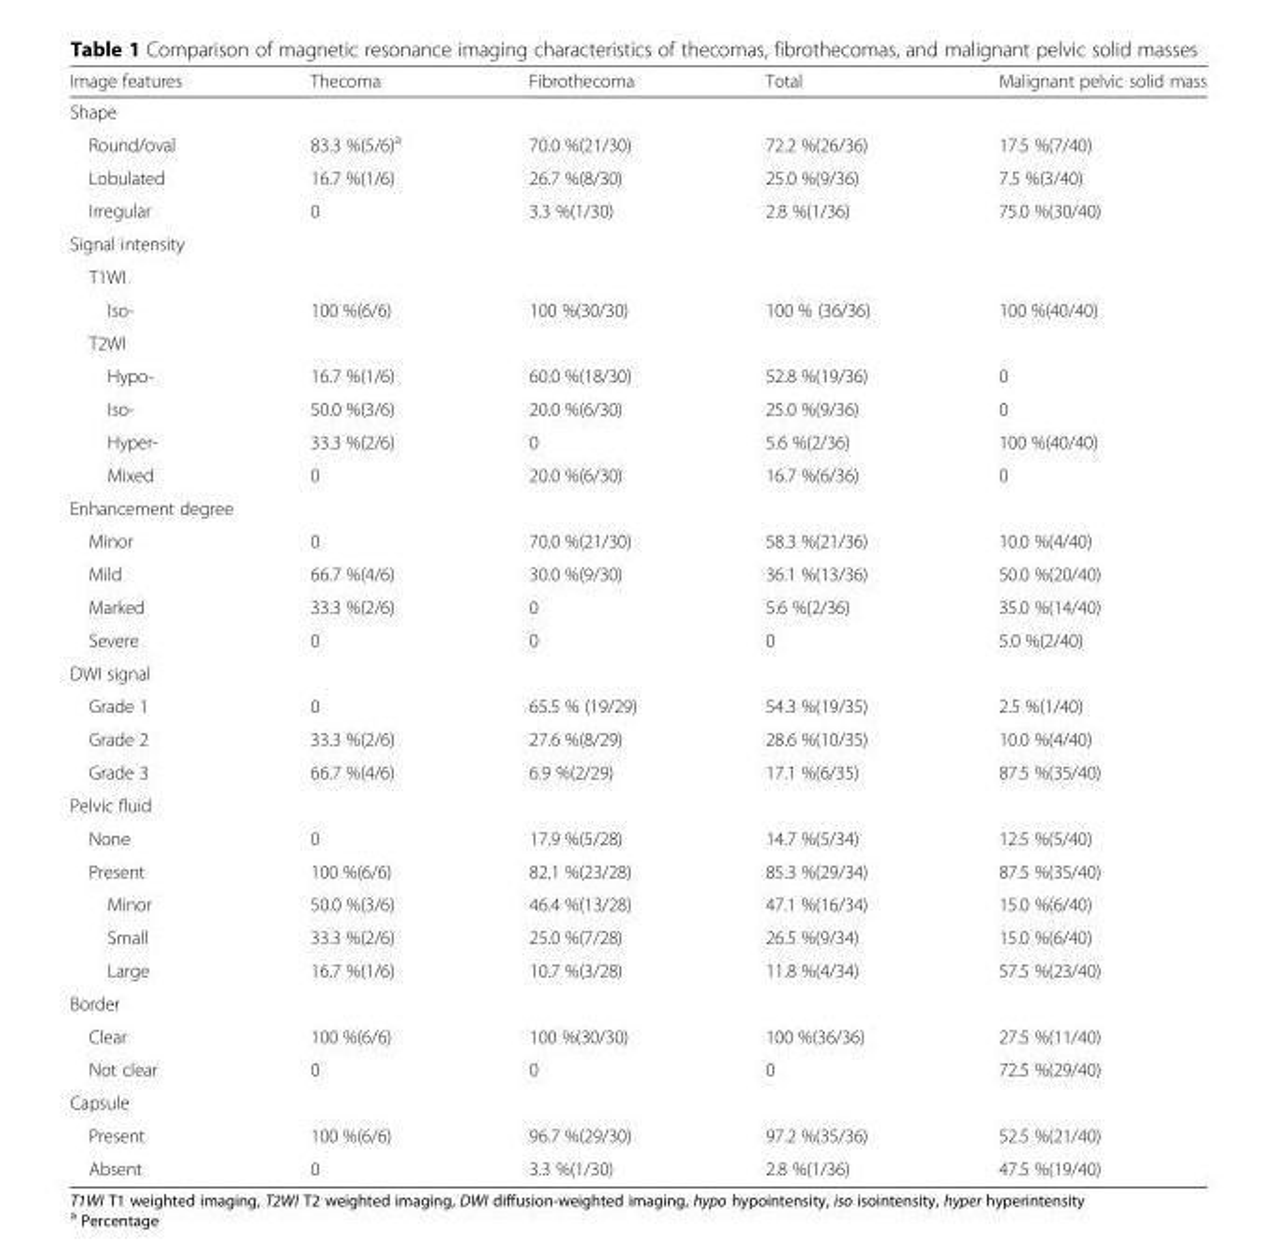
<table><thead><tr><td>Image features</td><td>Thecoma</td><td>Fibrothecoma</td><td>Total</td><td>Malignant pelvic solid mass</td></tr></thead><tbody><tr><td colspan="5">Shape</td></tr><tr><td>Round/oval</td><td>83.3 %(5/6)<sup>a</sup></td><td>70.0 %(21/30)</td><td>72.2 %(26/36)</td><td>17.5 %(7/40)</td></tr><tr><td>Lobulated</td><td>16.7 %(1/6)</td><td>26.7 %(8/30)</td><td>25.0 %(9/36)</td><td>7.5 %(3/40)</td></tr><tr><td>Irregular</td><td>0</td><td>3.3 %(1/30)</td><td>2.8 %(1/36)</td><td>75.0 %(30/40)</td></tr><tr><td colspan="5">Signal intensity</td></tr><tr><td colspan="5">T1WI</td></tr><tr><td>Iso-</td><td>100 %(6/6)</td><td>100 %(30/30)</td><td>100 % (36/36)</td><td>100 %(40/40)</td></tr><tr><td colspan="5">T2WI</td></tr><tr><td>Hypo-</td><td>16.7 %(1/6)</td><td>60.0 %(18/30)</td><td>52.8 %(19/36)</td><td>0</td></tr><tr><td>Iso-</td><td>50.0 %(3/6)</td><td>20.0 %(6/30)</td><td>25.0 %(9/36)</td><td>0</td></tr><tr><td>Hyper-</td><td>33.3 %(2/6)</td><td>0</td><td>5.6 %(2/36)</td><td>100 %(40/40)</td></tr><tr><td>Mixed</td><td>0</td><td>20.0 %(6/30)</td><td>16.7 %(6/36)</td><td>0</td></tr><tr><td colspan="5">Enhancement degree</td></tr><tr><td>Minor</td><td>0</td><td>70.0 %(21/30)</td><td>58.3 %(21/36)</td><td>10.0 %(4/40)</td></tr><tr><td>Mild</td><td>66.7 %(4/6)</td><td>30.0 %(9/30)</td><td>36.1 %(13/36)</td><td>50.0 %(20/40)</td></tr><tr><td>Marked</td><td>33.3 %(2/6)</td><td>0</td><td>5.6 %(2/36)</td><td>35.0 %(14/40)</td></tr><tr><td>Severe</td><td>0</td><td>0</td><td>0</td><td>5.0 %(2/40)</td></tr><tr><td colspan="5">DWI signal</td></tr><tr><td>Grade 1</td><td>0</td><td>65.5 % (19/29)</td><td>54.3 %(19/35)</td><td>2.5 %(1/40)</td></tr><tr><td>Grade 2</td><td>33.3 %(2/6)</td><td>27.6 %(8/29)</td><td>28.6 %(10/35)</td><td>10.0 %(4/40)</td></tr><tr><td>Grade 3</td><td>66.7 %(4/6)</td><td>6.9 %(2/29)</td><td>17.1 %(6/35)</td><td>87.5 %(35/40)</td></tr><tr><td colspan="5">Pelvic fluid</td></tr><tr><td>None</td><td>0</td><td>17.9 %(5/28)</td><td>14.7 %(5/34)</td><td>12.5 %(5/40)</td></tr><tr><td>Present</td><td>100 %(6/6)</td><td>82.1 %(23/28)</td><td>85.3 %(29/34)</td><td>87.5 %(35/40)</td></tr><tr><td>Minor</td><td>50.0 %(3/6)</td><td>46.4 %(13/28)</td><td>47.1 %(16/34)</td><td>15.0 %(6/40)</td></tr><tr><td>Small</td><td>33.3 %(2/6)</td><td>25.0 %(7/28)</td><td>26.5 %(9/34)</td><td>15.0 %(6/40)</td></tr><tr><td>Large</td><td>16.7 %(1/6)</td><td>10.7 %(3/28)</td><td>11.8 %(4/34)</td><td>57.5 %(23/40)</td></tr><tr><td colspan="5">Border</td></tr><tr><td>Clear</td><td>100 %(6/6)</td><td>100 %(30/30)</td><td>100 %(36/36)</td><td>27.5 %(11/40)</td></tr><tr><td>Not clear</td><td>0</td><td>0</td><td>0</td><td>72.5 %(29/40)</td></tr><tr><td colspan="5">Capsule</td></tr><tr><td>Present</td><td>100 %(6/6)</td><td>96.7 %(29/30)</td><td>97.2 %(35/36)</td><td>52.5 %(21/40)</td></tr><tr><td>Absent</td><td>0</td><td>3.3 %(1/30)</td><td>2.8 %(1/36)</td><td>47.5 %(19/40)</td></tr></tbody></table>